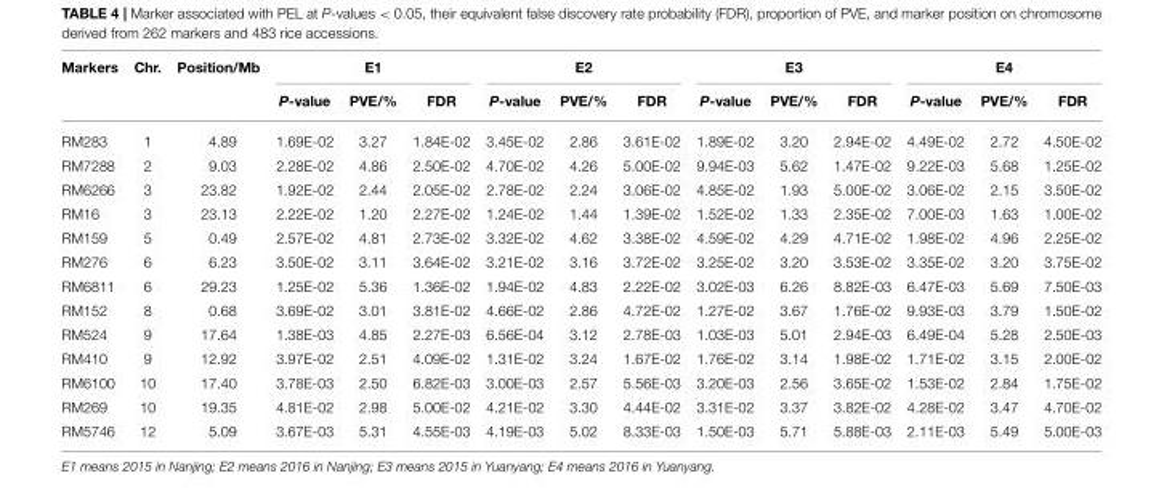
<table><thead><tr><td rowspan="2">Markers</td><td rowspan="2">Chr.</td><td rowspan="2">Position/Mb</td><td colspan="3">E1</td><td colspan="3">E2</td><td colspan="3">E3</td><td colspan="3">E4</td></tr><tr><td>P-value</td><td>PVE/%</td><td>FDR</td><td>P-value</td><td>PVE/%</td><td>FDR</td><td>P-value</td><td>PVE/%</td><td>FDR</td><td>P-value</td><td>PVE/%</td><td>FDR</td></tr></thead><tbody><tr><td>RM283</td><td>1</td><td>4.89</td><td>1.69E-02</td><td>3.27</td><td>1.84E-02</td><td>3.45E-02</td><td>2.86</td><td>3.61E-02</td><td>1.89E-02</td><td>3.20</td><td>2.94E-02</td><td>4.49E-02</td><td>2.72</td><td>4.50E-02</td></tr><tr><td>RM7288</td><td>2</td><td>9.03</td><td>2.28E-02</td><td>4.86</td><td>2.50E-02</td><td>4.70E-02</td><td>4.26</td><td>5.00E-02</td><td>9.94E-03</td><td>5.62</td><td>1.47E-02</td><td>9.22E-03</td><td>5.68</td><td>1.25E-02</td></tr><tr><td>RM6266</td><td>3</td><td>23.82</td><td>1.92E-02</td><td>2.44</td><td>2.05E-02</td><td>2.78E-02</td><td>2.24</td><td>3.06E-02</td><td>4.85E-02</td><td>1.93</td><td>5.00E-02</td><td>3.06E-02</td><td>2.15</td><td>3.50E-02</td></tr><tr><td>RM16</td><td>3</td><td>23.13</td><td>2.22E-02</td><td>1.20</td><td>2.27E-02</td><td>1.24E-02</td><td>1.44</td><td>1.39E-02</td><td>1.52E-02</td><td>1.33</td><td>2.35E-02</td><td>7.00E-03</td><td>1.63</td><td>1.00E-02</td></tr><tr><td>RM159</td><td>5</td><td>0.49</td><td>2.57E-02</td><td>4.81</td><td>2.73E-02</td><td>3.32E-02</td><td>4.62</td><td>3.38E-02</td><td>4.59E-02</td><td>4.29</td><td>4.71E-02</td><td>1.98E-02</td><td>4.96</td><td>2.25E-02</td></tr><tr><td>RM276</td><td>6</td><td>6.23</td><td>3.50E-02</td><td>3.11</td><td>3.64E-02</td><td>3.21E-02</td><td>3.16</td><td>3.72E-02</td><td>3.25E-02</td><td>3.20</td><td>3.53E-02</td><td>3.35E-02</td><td>3.20</td><td>3.75E-02</td></tr><tr><td>RM6811</td><td>6</td><td>29.23</td><td>1.25E-02</td><td>5.36</td><td>1.36E-02</td><td>1.94E-02</td><td>4.83</td><td>2.22E-02</td><td>3.02E-03</td><td>6.26</td><td>8.82E-03</td><td>6.47E-03</td><td>5.69</td><td>7.50E-03</td></tr><tr><td>RM152</td><td>8</td><td>0.68</td><td>3.69E-02</td><td>3.01</td><td>3.81E-02</td><td>4.66E-02</td><td>2.86</td><td>4.72E-02</td><td>1.27E-02</td><td>3.67</td><td>1.76E-02</td><td>9.93E-03</td><td>3.79</td><td>1.50E-02</td></tr><tr><td>RM524</td><td>9</td><td>17.64</td><td>1.38E-03</td><td>4.85</td><td>2.27E-03</td><td>6.56E-04</td><td>3.12</td><td>2.78E-03</td><td>1.03E-03</td><td>5.01</td><td>2.94E-03</td><td>6.49E-04</td><td>5.28</td><td>2.50E-03</td></tr><tr><td>RM410</td><td>9</td><td>12.92</td><td>3.97E-02</td><td>2.51</td><td>4.09E-02</td><td>1.31E-02</td><td>3.24</td><td>1.67E-02</td><td>1.76E-02</td><td>3.14</td><td>1.98E-02</td><td>1.71E-02</td><td>3.15</td><td>2.00E-02</td></tr><tr><td>RM6100</td><td>10</td><td>17.40</td><td>3.78E-03</td><td>2.50</td><td>6.82E-03</td><td>3.00E-03</td><td>2.57</td><td>5.56E-03</td><td>3.20E-03</td><td>2.56</td><td>3.65E-02</td><td>1.53E-02</td><td>2.84</td><td>1.75E-02</td></tr><tr><td>RM269</td><td>10</td><td>19.35</td><td>4.81E-02</td><td>2.98</td><td>5.00E-02</td><td>4.21E-02</td><td>3.30</td><td>4.44E-02</td><td>3.31E-02</td><td>3.37</td><td>3.82E-02</td><td>4.28E-02</td><td>3.47</td><td>4.70E-02</td></tr><tr><td>RM5746</td><td>12</td><td>5.09</td><td>3.67E-03</td><td>5.31</td><td>4.55E-03</td><td>4.19E-03</td><td>5.02</td><td>8.33E-03</td><td>1.50E-03</td><td>5.71</td><td>5.88E-03</td><td>2.11E-03</td><td>5.49</td><td>5.00E-03</td></tr></tbody></table>